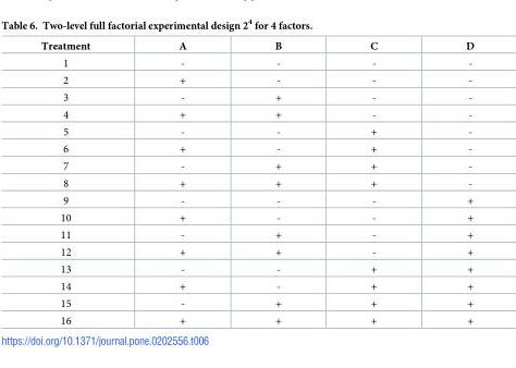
<table><thead><tr><td>Treatment</td><td>A</td><td>B</td><td>C</td><td>D</td></tr></thead><tbody><tr><td>1</td><td>-</td><td>-</td><td>-</td><td>-</td></tr><tr><td>2</td><td>+</td><td>-</td><td>-</td><td>-</td></tr><tr><td>3</td><td>-</td><td>+</td><td>-</td><td>-</td></tr><tr><td>4</td><td>+</td><td>+</td><td>-</td><td>-</td></tr><tr><td>5</td><td>-</td><td>-</td><td>+</td><td>-</td></tr><tr><td>6</td><td>+</td><td>-</td><td>+</td><td>-</td></tr><tr><td>7</td><td>-</td><td>+</td><td>+</td><td>-</td></tr><tr><td>8</td><td>+</td><td>+</td><td>+</td><td>-</td></tr><tr><td>9</td><td>-</td><td>-</td><td>-</td><td>+</td></tr><tr><td>10</td><td>+</td><td>-</td><td>-</td><td>+</td></tr><tr><td>11</td><td>-</td><td>+</td><td>-</td><td>+</td></tr><tr><td>12</td><td>+</td><td>+</td><td>-</td><td>+</td></tr><tr><td>13</td><td>-</td><td>-</td><td>+</td><td>+</td></tr><tr><td>14</td><td>+</td><td>-</td><td>+</td><td>+</td></tr><tr><td>15</td><td>-</td><td>+</td><td>+</td><td>+</td></tr><tr><td>16</td><td>+</td><td>+</td><td>+</td><td>+</td></tr></tbody></table>